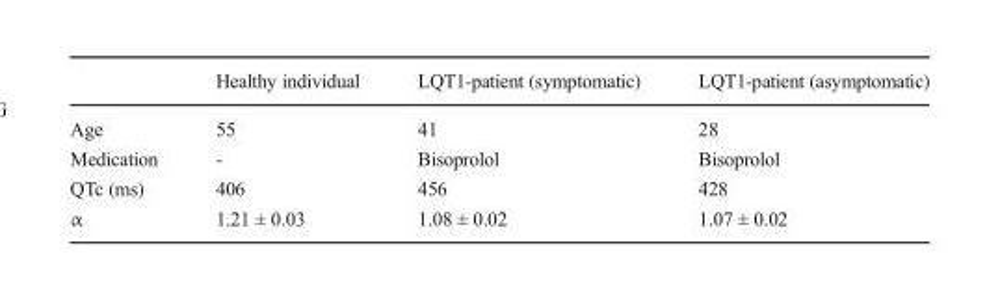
<table><thead><tr><td></td><td>Healthy individual</td><td>LQT1-patient (symptomatic)</td><td>LQT1-patient (asymptomatic)</td></tr></thead><tbody><tr><td>Age</td><td>55</td><td>41</td><td>28</td></tr><tr><td>Medication</td><td>-</td><td>Bisoprolol</td><td>Bisoprolol</td></tr><tr><td>QTc (ms)</td><td>406</td><td>456</td><td>428</td></tr><tr><td>α</td><td>1.21 ± 0.03</td><td>1.08 ± 0.02</td><td>1.07 ± 0.02</td></tr></tbody></table>